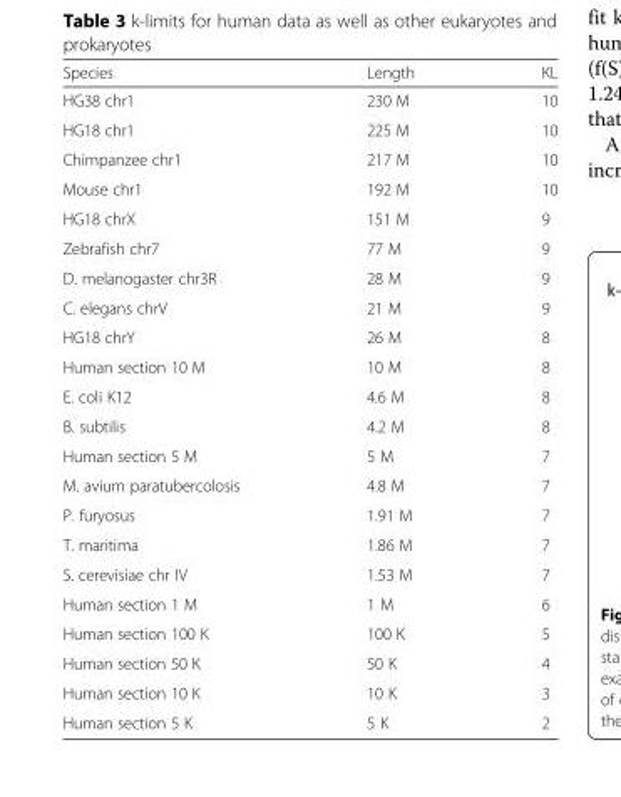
<table><thead><tr><td>Species</td><td>Length</td><td>KL</td></tr></thead><tbody><tr><td>HG38 chr1</td><td>230 M</td><td>10</td></tr><tr><td>HG18 chr1</td><td>225 M</td><td>10</td></tr><tr><td>Chimpanzee chr1</td><td>217 M</td><td>10</td></tr><tr><td>Mouse chr1</td><td>192 M</td><td>10</td></tr><tr><td>HG18 chrX</td><td>151 M</td><td>9</td></tr><tr><td>Zebrafish chr7</td><td>77 M</td><td>9</td></tr><tr><td>D. melanogaster chr3R</td><td>28 M</td><td>9</td></tr><tr><td>C. elegans chrV</td><td>21 M</td><td>9</td></tr><tr><td>HG18 chrY</td><td>26 M</td><td>8</td></tr><tr><td>Human section 10 M</td><td>10 M</td><td>8</td></tr><tr><td>E. coli K12</td><td>4.6 M</td><td>8</td></tr><tr><td>B. subtilis</td><td>4.2 M</td><td>8</td></tr><tr><td>Human section 5 M</td><td>5 M</td><td>7</td></tr><tr><td>M. avium paratubercolosis</td><td>4.8 M</td><td>7</td></tr><tr><td>P. furyosus</td><td>1.91 M</td><td>7</td></tr><tr><td>T. maritima</td><td>1.86 M</td><td>7</td></tr><tr><td>S. cerevisiae chr IV</td><td>1.53 M</td><td>7</td></tr><tr><td>Human section 1 M</td><td>1 M</td><td>6</td></tr><tr><td>Human section 100 K</td><td>100 K</td><td>5</td></tr><tr><td>Human section 50 K</td><td>50 K</td><td>4</td></tr><tr><td>Human section 10 K</td><td>10 K</td><td>3</td></tr><tr><td>Human section 5 K</td><td>5 K</td><td>2</td></tr></tbody></table>